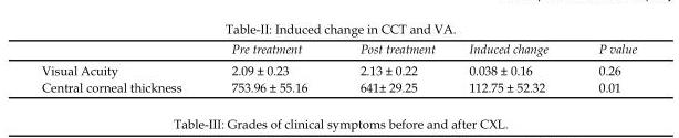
<table><thead><tr><td></td><td>Pre treatment</td><td>Post treatment</td><td>Induced change</td><td>P value</td></tr></thead><tbody><tr><td>Visual Acuity</td><td>2.09 ± 0.23</td><td>2.13 ± 0.22</td><td>0.038 ± 0.16</td><td>0.26</td></tr><tr><td>Central corneal thickness</td><td>753.96 ± 55.16</td><td>641± 29.25</td><td>112.75 ± 52.32</td><td>0.01</td></tr></tbody></table>